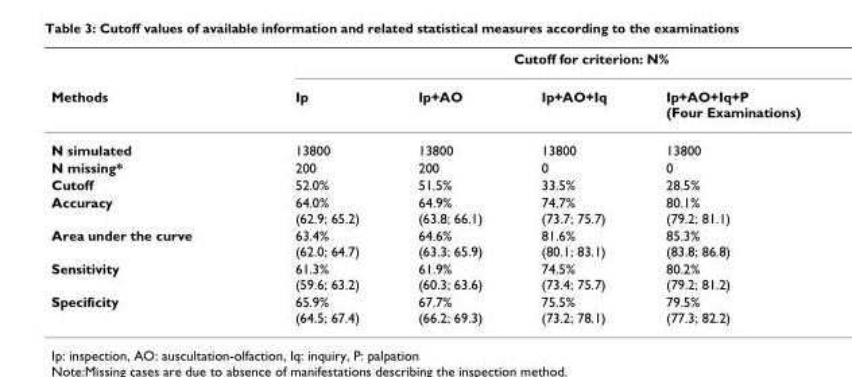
<table><thead><tr><td rowspan="2">Methods</td><td colspan="4">Cutoff for criterion: N%</td></tr><tr><td>Ip</td><td>Ip+AO</td><td>Ip+AO+Iq</td><td>Ip+AO+Iq+P (Four Examinations)</td></tr></thead><tbody><tr><td>N simulated</td><td>13800</td><td>13800</td><td>13800</td><td>13800</td></tr><tr><td>N missing*</td><td>200</td><td>200</td><td>0</td><td>0</td></tr><tr><td>Cutoff</td><td>52.0%</td><td>51.5%</td><td>33.5%</td><td>28.5%</td></tr><tr><td>Accuracy</td><td>64.0% (62.9; 65.2)</td><td>64.9% (63.8; 66.1)</td><td>74.7% (73.7; 75.7)</td><td>80.1% (79.2; 81.1)</td></tr><tr><td>Area under the curve</td><td>63.4% (62.0; 64.7)</td><td>64.6% (63.3; 65.9)</td><td>81.6% (80.1; 83.1)</td><td>85.3% (83.8; 86.8)</td></tr><tr><td>Sensitivity</td><td>61.3% (59.6; 63.2)</td><td>61.9% (60.3; 63.6)</td><td>74.5% (73.4; 75.7)</td><td>80.2% (79.2; 81.2)</td></tr><tr><td>Specificity</td><td>65.9% (64.5; 67.4)</td><td>67.7% (66.2; 69.3)</td><td>75.5% (73.2; 78.1)</td><td>79.5% (77.3; 82.2)</td></tr></tbody></table>